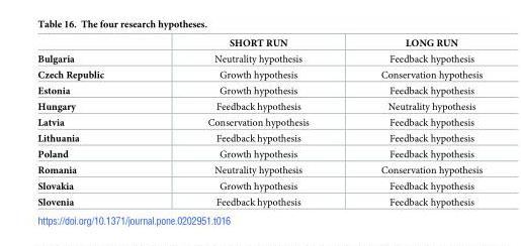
<table><thead><tr><td></td><td>SHORT RUN</td><td>LONG RUN</td></tr></thead><tbody><tr><td>Bulgaria</td><td>Neutrality hypothesis</td><td>Feedback hypothesis</td></tr><tr><td>Czech Republic</td><td>Growth hypothesis</td><td>Conservation hypothesis</td></tr><tr><td>Estonia</td><td>Growth hypothesis</td><td>Feedback hypothesis</td></tr><tr><td>Hungary</td><td>Feedback hypothesis</td><td>Neutrality hypothesis</td></tr><tr><td>Latvia</td><td>Conservation hypothesis</td><td>Feedback hypothesis</td></tr><tr><td>Lithuania</td><td>Feedback hypothesis</td><td>Feedback hypothesis</td></tr><tr><td>Poland</td><td>Growth hypothesis</td><td>Feedback hypothesis</td></tr><tr><td>Romania</td><td>Neutrality hypothesis</td><td>Conservation hypothesis</td></tr><tr><td>Slovakia</td><td>Growth hypothesis</td><td>Feedback hypothesis</td></tr><tr><td>Slovenia</td><td>Feedback hypothesis</td><td>Feedback hypothesis</td></tr></tbody></table>